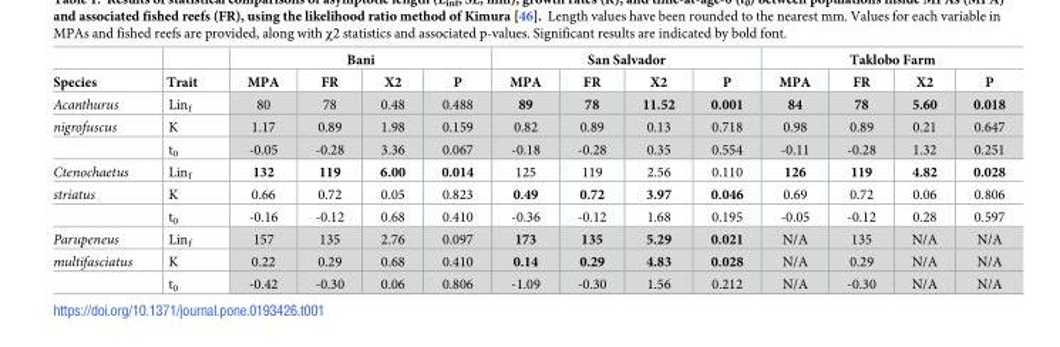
<table><thead><tr><td rowspan="2">Species</td><td rowspan="2">Trait</td><td colspan="4">Bani</td><td colspan="4">San Salvador</td><td colspan="4">Taklobo Farm</td></tr><tr><td>MPA</td><td>FR</td><td>X2</td><td>P</td><td>MPA</td><td>FR</td><td>X2</td><td>P</td><td>MPA</td><td>FR</td><td>X2</td><td>P</td></tr></thead><tbody><tr><td>Acanthurus</td><td>Lin<sub>f</sub></td><td>80</td><td>78</td><td>0.48</td><td>0.488</td><td>89</td><td>78</td><td>11.52</td><td>0.001</td><td>84</td><td>78</td><td>5.60</td><td>0.018</td></tr><tr><td rowspan="2">nigrofuscus</td><td>K</td><td>1.17</td><td>0.89</td><td>1.98</td><td>0.159</td><td>0.82</td><td>0.89</td><td>0.13</td><td>0.718</td><td>0.98</td><td>0.89</td><td>0.21</td><td>0.647</td></tr><tr><td>t<sub>0</sub></td><td>-0.05</td><td>-0.28</td><td>3.36</td><td>0.067</td><td>-0.18</td><td>-0.28</td><td>0.35</td><td>0.554</td><td>-0.11</td><td>-0.28</td><td>1.32</td><td>0.251</td></tr><tr><td>Ctenochaetus</td><td>Lin<sub>f</sub></td><td>132</td><td>119</td><td>6.00</td><td>0.014</td><td>125</td><td>119</td><td>2.56</td><td>0.110</td><td>126</td><td>119</td><td>4.82</td><td>0.028</td></tr><tr><td rowspan="2">striatus</td><td>K</td><td>0.66</td><td>0.72</td><td>0.05</td><td>0.823</td><td>0.49</td><td>0.72</td><td>3.97</td><td>0.046</td><td>0.69</td><td>0.72</td><td>0.06</td><td>0.806</td></tr><tr><td>t<sub>0</sub></td><td>-0.16</td><td>-0.12</td><td>0.68</td><td>0.410</td><td>-0.36</td><td>-0.12</td><td>1.68</td><td>0.195</td><td>-0.05</td><td>-0.12</td><td>0.28</td><td>0.597</td></tr><tr><td>Parupeneus</td><td>Lin<sub>f</sub></td><td>157</td><td>135</td><td>2.76</td><td>0.097</td><td>173</td><td>135</td><td>5.29</td><td>0.021</td><td>N/A</td><td>135</td><td>N/A</td><td>N/A</td></tr><tr><td rowspan="2">multifasciatus</td><td>K</td><td>0.22</td><td>0.29</td><td>0.68</td><td>0.410</td><td>0.14</td><td>0.29</td><td>4.83</td><td>0.028</td><td>N/A</td><td>0.29</td><td>N/A</td><td>N/A</td></tr><tr><td>t<sub>0</sub></td><td>-0.42</td><td>-0.30</td><td>0.06</td><td>0.806</td><td>-1.09</td><td>-0.30</td><td>1.56</td><td>0.212</td><td>N/A</td><td>-0.30</td><td>N/A</td><td>N/A</td></tr></tbody></table>